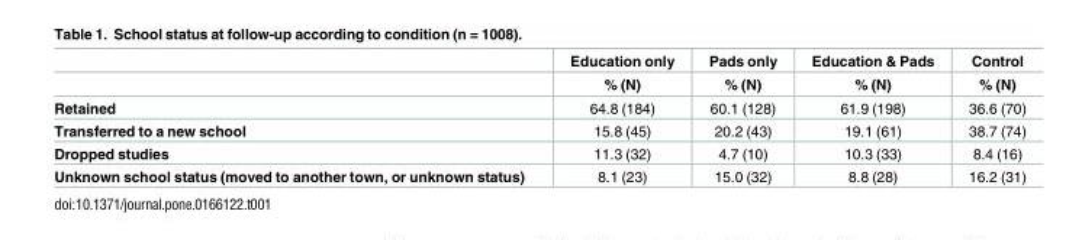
<table><thead><tr><td rowspan="2"></td><td rowspan="2">Education only % (N)</td><td rowspan="2">Pads only % (N)</td><td rowspan="2">Education &amp; Pads % (N)</td><td rowspan="2">Control % (N)</td></tr><tr></tr></thead><tbody><tr><td>Retained</td><td>64.8 (184)</td><td>60.1 (128)</td><td>61.9 (198)</td><td>36.6 (70)</td></tr><tr><td>Transferred to a new school</td><td>15.8 (45)</td><td>20.2 (43)</td><td>19.1 (61)</td><td>38.7 (74)</td></tr><tr><td>Dropped studies</td><td>11.3 (32)</td><td>4.7 (10)</td><td>10.3 (33)</td><td>8.4 (16)</td></tr><tr><td>Unknown school status (moved to another town, or unknown status)</td><td>8.1 (23)</td><td>15.0 (32)</td><td>8.8 (28)</td><td>16.2 (31)</td></tr></tbody></table>